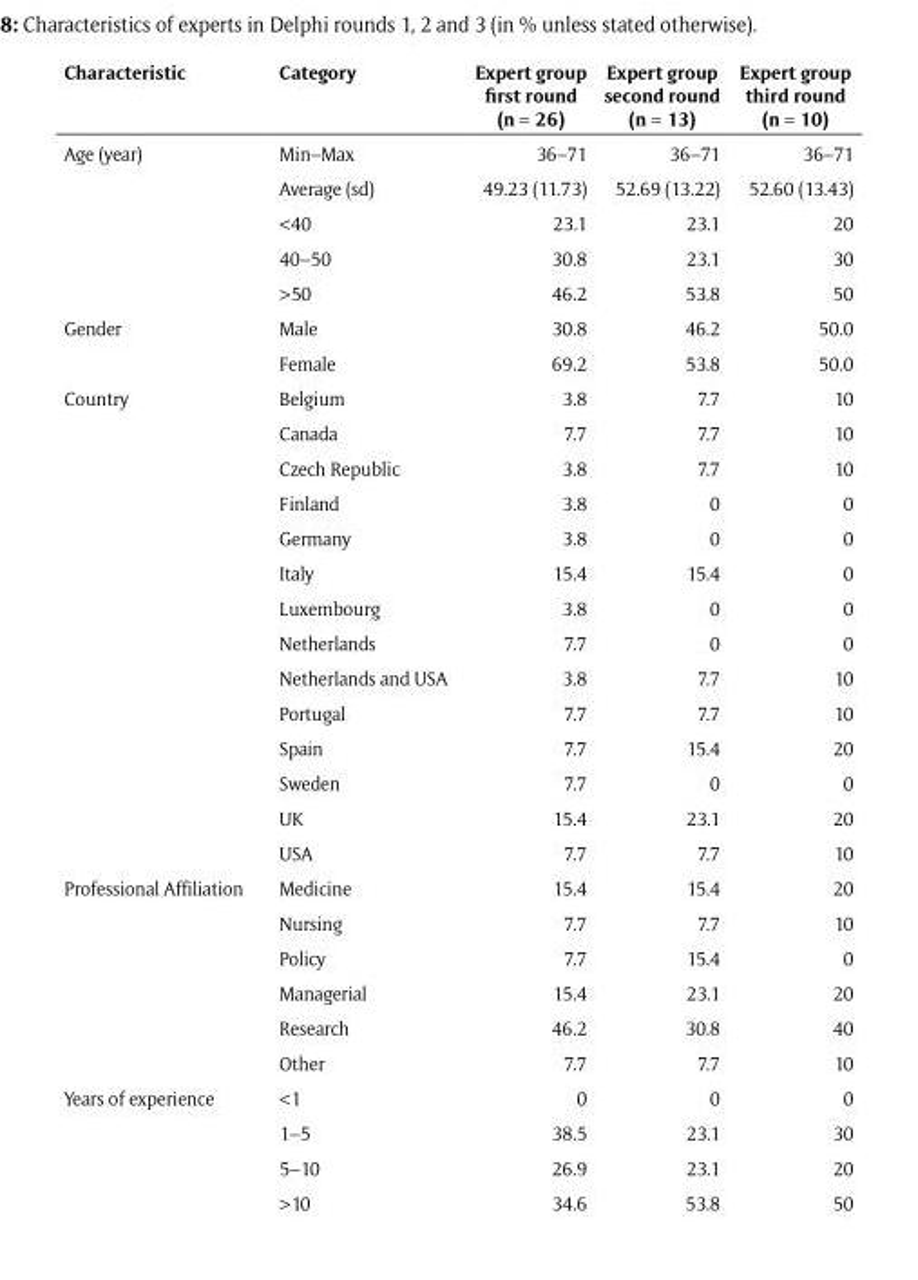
<table><thead><tr><td>Characteristic</td><td>Category</td><td>Expert group first round (n = 26)</td><td>Expert group second round (n = 13)</td><td>Expert group third round (n = 10)</td></tr></thead><tbody><tr><td rowspan="5">Age (year)</td><td>Min–Max</td><td>36–71</td><td>36–71</td><td>36–71</td></tr><tr><td>Average (sd)</td><td>49.23 (11.73)</td><td>52.69 (13.22)</td><td>52.60 (13.43)</td></tr><tr><td>&lt;40</td><td>23.1</td><td>23.1</td><td>20</td></tr><tr><td>40–50</td><td>30.8</td><td>23.1</td><td>30</td></tr><tr><td>&gt;50</td><td>46.2</td><td>53.8</td><td>50</td></tr><tr><td rowspan="2">Gender</td><td>Male</td><td>30.8</td><td>46.2</td><td>50.0</td></tr><tr><td>Female</td><td>69.2</td><td>53.8</td><td>50.0</td></tr><tr><td rowspan="14">Country</td><td>Belgium</td><td>3.8</td><td>7.7</td><td>10</td></tr><tr><td>Canada</td><td>7.7</td><td>7.7</td><td>10</td></tr><tr><td>Czech Republic</td><td>3.8</td><td>7.7</td><td>10</td></tr><tr><td>Finland</td><td>3.8</td><td>0</td><td>0</td></tr><tr><td>Germany</td><td>3.8</td><td>0</td><td>0</td></tr><tr><td>Italy</td><td>15.4</td><td>15.4</td><td>0</td></tr><tr><td>Luxembourg</td><td>3.8</td><td>0</td><td>0</td></tr><tr><td>Netherlands</td><td>7.7</td><td>0</td><td>0</td></tr><tr><td>Netherlands and USA</td><td>3.8</td><td>7.7</td><td>10</td></tr><tr><td>Portugal</td><td>7.7</td><td>7.7</td><td>10</td></tr><tr><td>Spain</td><td>7.7</td><td>15.4</td><td>20</td></tr><tr><td>Sweden</td><td>7.7</td><td>0</td><td>0</td></tr><tr><td>UK</td><td>15.4</td><td>23.1</td><td>20</td></tr><tr><td>USA</td><td>7.7</td><td>7.7</td><td>10</td></tr><tr><td rowspan="6">Professional Affiliation</td><td>Medicine</td><td>15.4</td><td>15.4</td><td>20</td></tr><tr><td>Nursing</td><td>7.7</td><td>7.7</td><td>10</td></tr><tr><td>Policy</td><td>7.7</td><td>15.4</td><td>0</td></tr><tr><td>Managerial</td><td>15.4</td><td>23.1</td><td>20</td></tr><tr><td>Research</td><td>46.2</td><td>30.8</td><td>40</td></tr><tr><td>Other</td><td>7.7</td><td>7.7</td><td>10</td></tr><tr><td rowspan="4">Years of experience</td><td>&lt;1</td><td>0</td><td>0</td><td>0</td></tr><tr><td>1–5</td><td>38.5</td><td>23.1</td><td>30</td></tr><tr><td>5–10</td><td>26.9</td><td>23.1</td><td>20</td></tr><tr><td>&gt;10</td><td>34.6</td><td>53.8</td><td>50</td></tr></tbody></table>